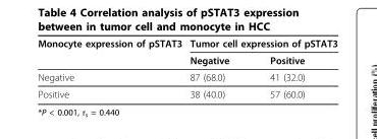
<table><thead><tr><td rowspan="2">Monocyte expression of pSTAT3</td><td colspan="2">Tumor cell expression of pSTAT3</td></tr><tr><td>Negative</td><td>Positive</td></tr></thead><tbody><tr><td>Negative</td><td>87 (68.0)</td><td>41 (32.0)</td></tr><tr><td>Positive</td><td>38 (40.0)</td><td>57 (60.0)</td></tr></tbody></table>